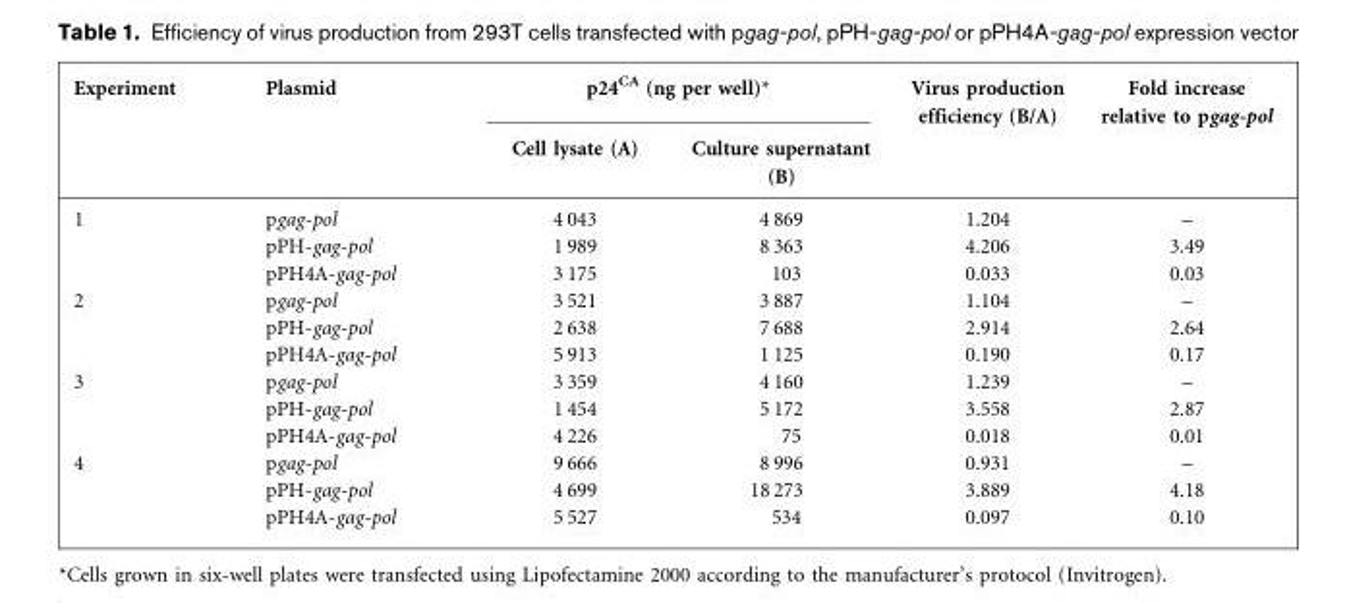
<table><thead><tr><td rowspan="2">Experiment</td><td rowspan="2">Plasmid</td><td colspan="2">p24<sup>CA</sup> (ng per well)*</td><td rowspan="2">Virus production efficiency (B/A)</td><td rowspan="2">Fold increase relative to pgag-pol</td></tr><tr><td>Cell lysate (A)</td><td>Culture supernatant (B)</td></tr></thead><tbody><tr><td rowspan="3">1</td><td>pgag-pol</td><td>4 043</td><td>4 869</td><td>1.204</td><td>–</td></tr><tr><td>pPH-gag-pol</td><td>1 989</td><td>8 363</td><td>4.206</td><td>3.49</td></tr><tr><td>pPH4A-gag-pol</td><td>3 175</td><td>103</td><td>0.033</td><td>0.03</td></tr><tr><td rowspan="3">2</td><td>pgag-pol</td><td>3 521</td><td>3 887</td><td>1.104</td><td>–</td></tr><tr><td>pPH-gag-pol</td><td>2 638</td><td>7 688</td><td>2.914</td><td>2.64</td></tr><tr><td>pPH4A-gag-pol</td><td>5 913</td><td>1 125</td><td>0.190</td><td>0.17</td></tr><tr><td rowspan="3">3</td><td>pgag-pol</td><td>3 359</td><td>4 160</td><td>1.239</td><td>–</td></tr><tr><td>pPH-gag-pol</td><td>1 454</td><td>5 172</td><td>3.558</td><td>2.87</td></tr><tr><td>pPH4A-gag-pol</td><td>4 226</td><td>75</td><td>0.018</td><td>0.01</td></tr><tr><td rowspan="3">4</td><td>pgag-pol</td><td>9 666</td><td>8 996</td><td>0.931</td><td>–</td></tr><tr><td>pPH-gag-pol</td><td>4 699</td><td>18 273</td><td>3.889</td><td>4.18</td></tr><tr><td>pPH4A-gag-pol</td><td>5 527</td><td>534</td><td>0.097</td><td>0.10</td></tr></tbody></table>